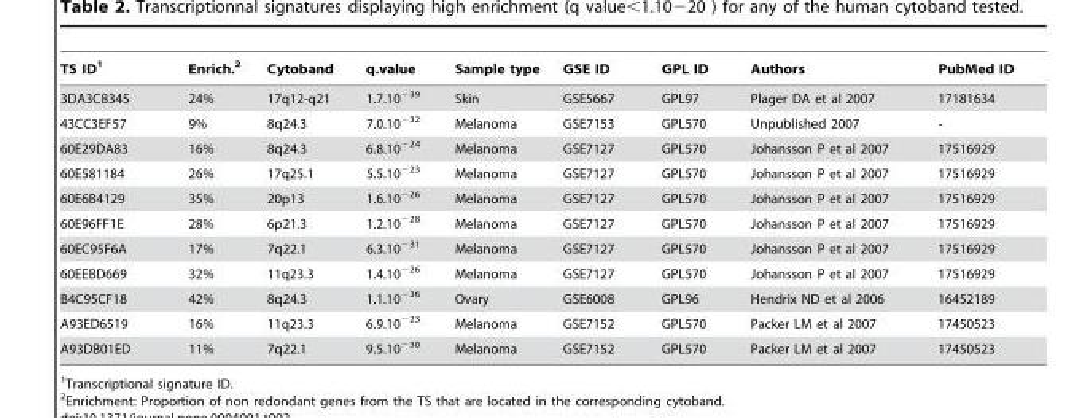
<table><thead><tr><td>TS ID<sup>1</sup></td><td>Enrich.<sup>2</sup></td><td>Cytoband</td><td>q.value</td><td>Sample type</td><td>GSE ID</td><td>GPL ID</td><td>Authors</td><td>PubMed ID</td></tr></thead><tbody><tr><td>3DA3C8345</td><td>24%</td><td>17q12-q21</td><td>1.7.10<sup>−39</sup></td><td>Skin</td><td>GSE5667</td><td>GPL97</td><td>Plager DA et al 2007</td><td>17181634</td></tr><tr><td>43CC3EF57</td><td>9%</td><td>8q24.3</td><td>7.0.10<sup>−32</sup></td><td>Melanoma</td><td>GSE7153</td><td>GPL570</td><td>Unpublished 2007</td><td>-</td></tr><tr><td>60E29DA83</td><td>16%</td><td>8q24.3</td><td>6.8.10<sup>−24</sup></td><td>Melanoma</td><td>GSE7127</td><td>GPL570</td><td>Johansson P et al 2007</td><td>17516929</td></tr><tr><td>60E581184</td><td>26%</td><td>17q25.1</td><td>5.5.10<sup>−23</sup></td><td>Melanoma</td><td>GSE7127</td><td>GPL570</td><td>Johansson P et al 2007</td><td>17516929</td></tr><tr><td>60E6B4129</td><td>35%</td><td>20p13</td><td>1.6.10<sup>−26</sup></td><td>Melanoma</td><td>GSE7127</td><td>GPL570</td><td>Johansson P et al 2007</td><td>17516929</td></tr><tr><td>60E96FF1E</td><td>28%</td><td>6p21.3</td><td>1.2.10<sup>−28</sup></td><td>Melanoma</td><td>GSE7127</td><td>GPL570</td><td>Johansson P et al 2007</td><td>17516929</td></tr><tr><td>60EC95F6A</td><td>17%</td><td>7q22.1</td><td>6.3.10<sup>−31</sup></td><td>Melanoma</td><td>GSE7127</td><td>GPL570</td><td>Johansson P et al 2007</td><td>17516929</td></tr><tr><td>60EEBD669</td><td>32%</td><td>11q23.3</td><td>1.4.10<sup>−26</sup></td><td>Melanoma</td><td>GSE7127</td><td>GPL570</td><td>Johansson P et al 2007</td><td>17516929</td></tr><tr><td>B4C95CF18</td><td>42%</td><td>8q24.3</td><td>1.1.10<sup>−36</sup></td><td>Ovary</td><td>GSE6008</td><td>GPL96</td><td>Hendrix ND et al 2006</td><td>16452189</td></tr><tr><td>A93ED6519</td><td>16%</td><td>11q23.3</td><td>6.9.10<sup>−23</sup></td><td>Melanoma</td><td>GSE7152</td><td>GPL570</td><td>Packer LM et al 2007</td><td>17450523</td></tr><tr><td>A93DB01ED</td><td>11%</td><td>7q22.1</td><td>9.5.10<sup>−30</sup></td><td>Melanoma</td><td>GSE7152</td><td>GPL570</td><td>Packer LM et al 2007</td><td>17450523</td></tr></tbody></table>